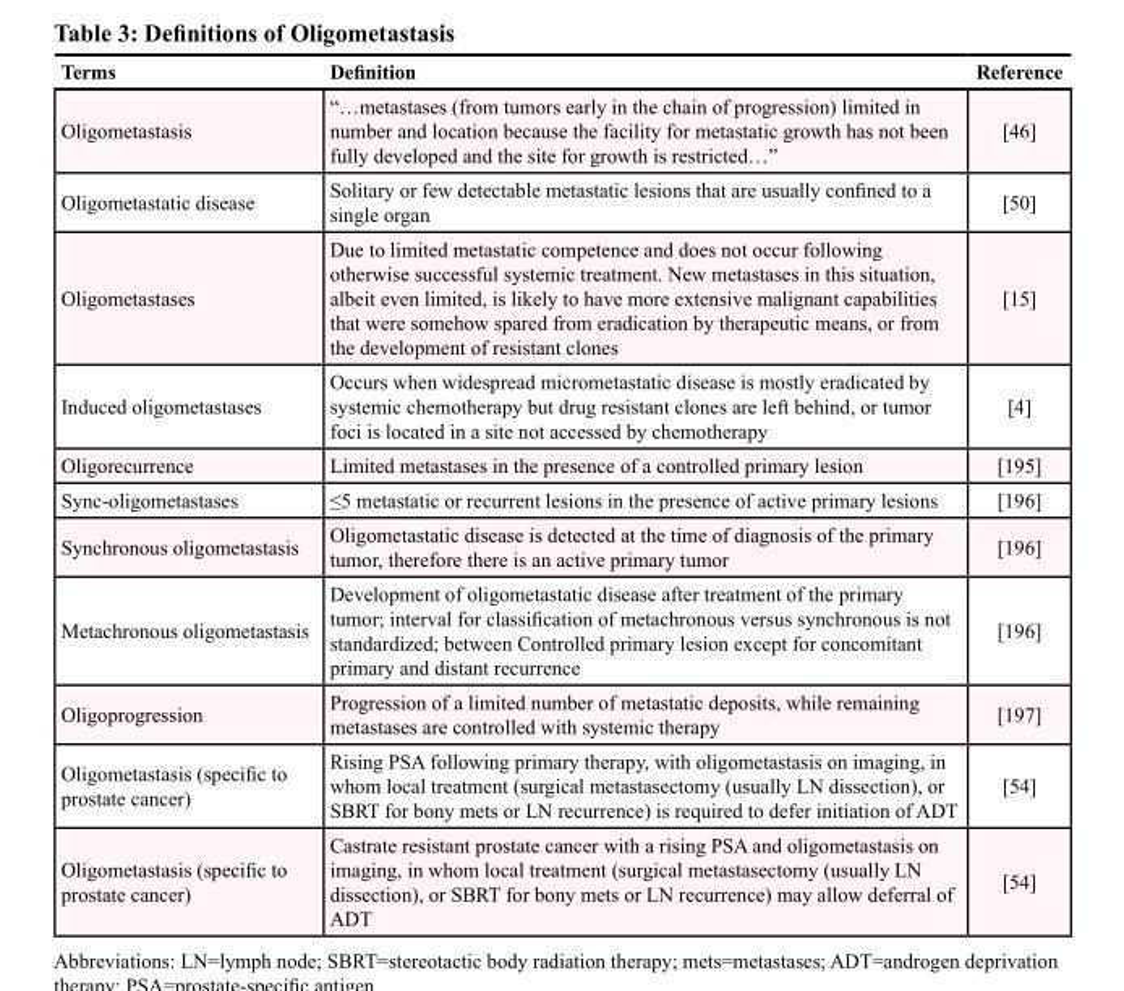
<table><thead><tr><td>Terms</td><td>Definition</td><td>Reference</td></tr></thead><tbody><tr><td>Oligometastasis</td><td>“…metastases (from tumors early in the chain of progression) limited in number and location because the facility for metastatic growth has not been fully developed and the site for growth is restricted…”</td><td>[46]</td></tr><tr><td>Oligometastatic disease</td><td>Solitary or few detectable metastatic lesions that are usually confined to a single organ</td><td>[50]</td></tr><tr><td>Oligometastases</td><td>Due to limited metastatic competence and does not occur following otherwise successful systemic treatment. New metastases in this situation, albeit even limited, is likely to have more extensive malignant capabilities that were somehow spared from eradication by therapeutic means, or from the development of resistant clones</td><td>[15]</td></tr><tr><td>Induced oligometastases</td><td>Occurs when widespread micrometastatic disease is mostly eradicated by systemic chemotherapy but drug resistant clones are left behind, or tumor foci is located in a site not accessed by chemotherapy</td><td>[4]</td></tr><tr><td>Oligorecurrence</td><td>Limited metastases in the presence of a controlled primary lesion</td><td>[195]</td></tr><tr><td>Sync-oligometastases</td><td>≤5 metastatic or recurrent lesions in the presence of active primary lesions</td><td>[196]</td></tr><tr><td>Synchronous oligometastasis</td><td>Oligometastatic disease is detected at the time of diagnosis of the primary tumor, therefore there is an active primary tumor</td><td>[196]</td></tr><tr><td>Metachronous oligometastasis</td><td>Development of oligometastatic disease after treatment of the primary tumor; interval for classification of metachronous versus synchronous is not standardized; between Controlled primary lesion except for concomitant primary and distant recurrence</td><td>[196]</td></tr><tr><td>Oligoprogression</td><td>Progression of a limited number of metastatic deposits, while remaining metastases are controlled with systemic therapy</td><td>[197]</td></tr><tr><td>Oligometastasis (specific to prostate cancer)</td><td>Rising PSA following primary therapy, with oligometastasis on imaging, in whom local treatment (surgical metastasectomy (usually LN dissection), or SBRT for bony mets or LN recurrence) is required to defer initiation of ADT</td><td>[54]</td></tr><tr><td>Oligometastasis (specific to prostate cancer)</td><td>Castrate resistant prostate cancer with a rising PSA and oligometastasis on imaging, in whom local treatment (surgical metastasectomy (usually LN dissection), or SBRT for bony mets or LN recurrence) may allow deferral of ADT</td><td>[54]</td></tr></tbody></table>